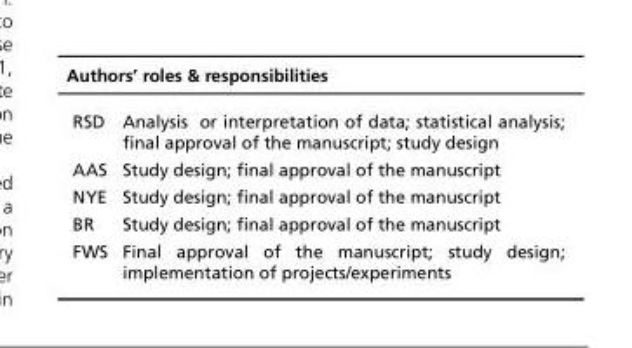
<table><thead><tr><td colspan="2">Authors’ roles &amp; responsibilities</td></tr><tr><td>RSD</td><td>Analysis or interpretation of data; statistical analysis; final approval of the manuscript; study design</td></tr></thead><tbody><tr><td>AAS</td><td>Study design; final approval of the manuscript</td></tr><tr><td>NYE</td><td>Study design; final approval of the manuscript</td></tr><tr><td>BR</td><td>Study design; final approval of the manuscript</td></tr><tr><td>FWS</td><td>Final approval of the manuscript; study design; implementation of projects/experiments</td></tr></tbody></table>